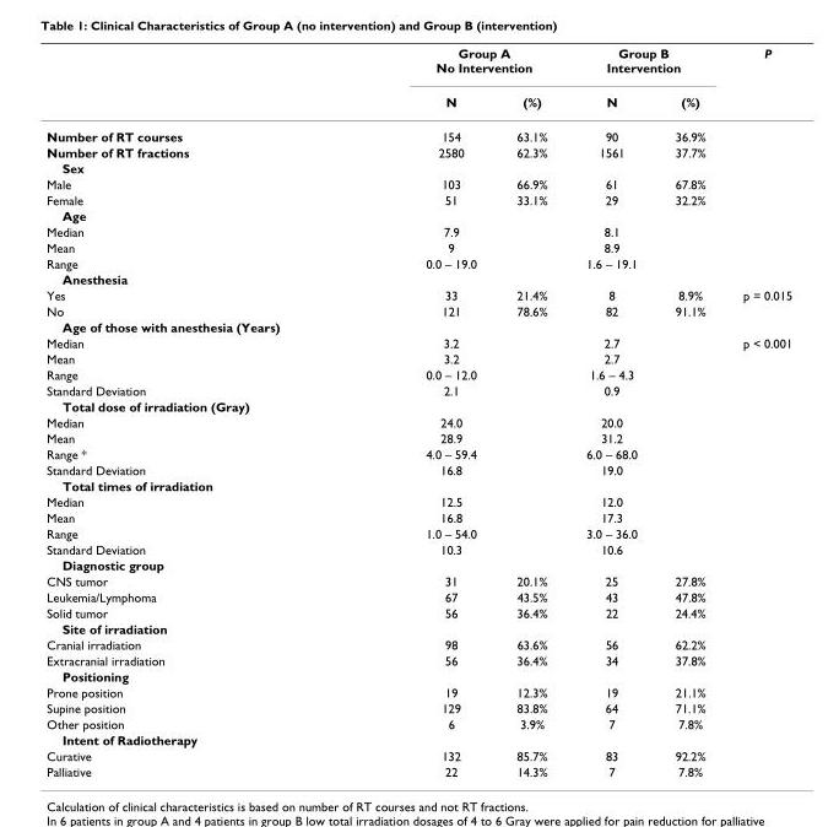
<table><thead><tr><td rowspan="2"></td><td colspan="2">Group A No Intervention</td><td colspan="2">Group B Intervention</td><td rowspan="2">P</td></tr><tr><td>N</td><td>(%)</td><td>N</td><td>(%)</td></tr></thead><tbody><tr><td>Number of RT courses</td><td>154</td><td>63.1%</td><td>90</td><td>36.9%</td><td></td></tr><tr><td>Number of RT fractions</td><td>2580</td><td>62.3%</td><td>1561</td><td>37.7%</td><td></td></tr><tr><td colspan="6">Sex</td></tr><tr><td>Male</td><td>103</td><td>66.9%</td><td>61</td><td>67.8%</td><td></td></tr><tr><td>Female</td><td>51</td><td>33.1%</td><td>29</td><td>32.2%</td><td></td></tr><tr><td colspan="6">Age</td></tr><tr><td>Median</td><td>7.9</td><td></td><td>8.1</td><td></td><td></td></tr><tr><td>Mean</td><td>9</td><td></td><td>8.9</td><td></td><td></td></tr><tr><td>Range</td><td>0.0 – 19.0</td><td></td><td>1.6 – 19.1</td><td></td><td></td></tr><tr><td colspan="6">Anesthesia</td></tr><tr><td>Yes</td><td>33</td><td>21.4%</td><td>8</td><td>8.9%</td><td>p = 0.015</td></tr><tr><td>No</td><td>121</td><td>78.6%</td><td>82</td><td>91.1%</td><td></td></tr><tr><td colspan="6">Age of those with anesthesia (Years)</td></tr><tr><td>Median</td><td>3.2</td><td></td><td>2.7</td><td></td><td>p &lt; 0.001</td></tr><tr><td>Mean</td><td>3.2</td><td></td><td>2.7</td><td></td><td></td></tr><tr><td>Range</td><td>0.0 – 12.0</td><td></td><td>1.6 – 4.3</td><td></td><td></td></tr><tr><td>Standard Deviation</td><td>2.1</td><td></td><td>0.9</td><td></td><td></td></tr><tr><td colspan="6">Total dose of irradiation (Gray)</td></tr><tr><td>Median</td><td>24.0</td><td></td><td>20.0</td><td></td><td></td></tr><tr><td>Mean</td><td>28.9</td><td></td><td>31.2</td><td></td><td></td></tr><tr><td>Range *</td><td>4.0 – 59.4</td><td></td><td>6.0 – 68.0</td><td></td><td></td></tr><tr><td>Standard Deviation</td><td>16.8</td><td></td><td>19.0</td><td></td><td></td></tr><tr><td colspan="6">Total times of irradiation</td></tr><tr><td>Median</td><td>12.5</td><td></td><td>12.0</td><td></td><td></td></tr><tr><td>Mean</td><td>16.8</td><td></td><td>17.3</td><td></td><td></td></tr><tr><td>Range</td><td>1.0 – 54.0</td><td></td><td>3.0 – 36.0</td><td></td><td></td></tr><tr><td>Standard Deviation</td><td>10.3</td><td></td><td>10.6</td><td></td><td></td></tr><tr><td colspan="6">Diagnostic group</td></tr><tr><td>CNS tumor</td><td>31</td><td>20.1%</td><td>25</td><td>27.8%</td><td></td></tr><tr><td>Leukemia/Lymphoma</td><td>67</td><td>43.5%</td><td>43</td><td>47.8%</td><td></td></tr><tr><td>Solid tumor</td><td>56</td><td>36.4%</td><td>22</td><td>24.4%</td><td></td></tr><tr><td colspan="6">Site of irradiation</td></tr><tr><td>Cranial irradiation</td><td>98</td><td>63.6%</td><td>56</td><td>62.2%</td><td></td></tr><tr><td>Extracranial irradiation</td><td>56</td><td>36.4%</td><td>34</td><td>37.8%</td><td></td></tr><tr><td colspan="6">Positioning</td></tr><tr><td>Prone position</td><td>19</td><td>12.3%</td><td>19</td><td>21.1%</td><td></td></tr><tr><td>Supine position</td><td>129</td><td>83.8%</td><td>64</td><td>71.1%</td><td></td></tr><tr><td>Other position</td><td>6</td><td>3.9%</td><td>7</td><td>7.8%</td><td></td></tr><tr><td colspan="6">Intent of Radiotherapy</td></tr><tr><td>Curative</td><td>132</td><td>85.7%</td><td>83</td><td>92.2%</td><td></td></tr><tr><td>Palliative</td><td>22</td><td>14.3%</td><td>7</td><td>7.8%</td><td></td></tr></tbody></table>